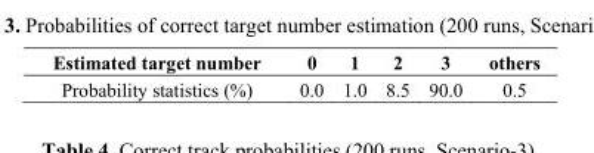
<table><thead><tr><td>Estimated target number</td><td>0</td><td>1</td><td>2</td><td>3</td><td>others</td></tr></thead><tbody><tr><td>Probability statistics (%)</td><td>0.0</td><td>1.0</td><td>8.5</td><td>90.0</td><td>0.5</td></tr></tbody></table>